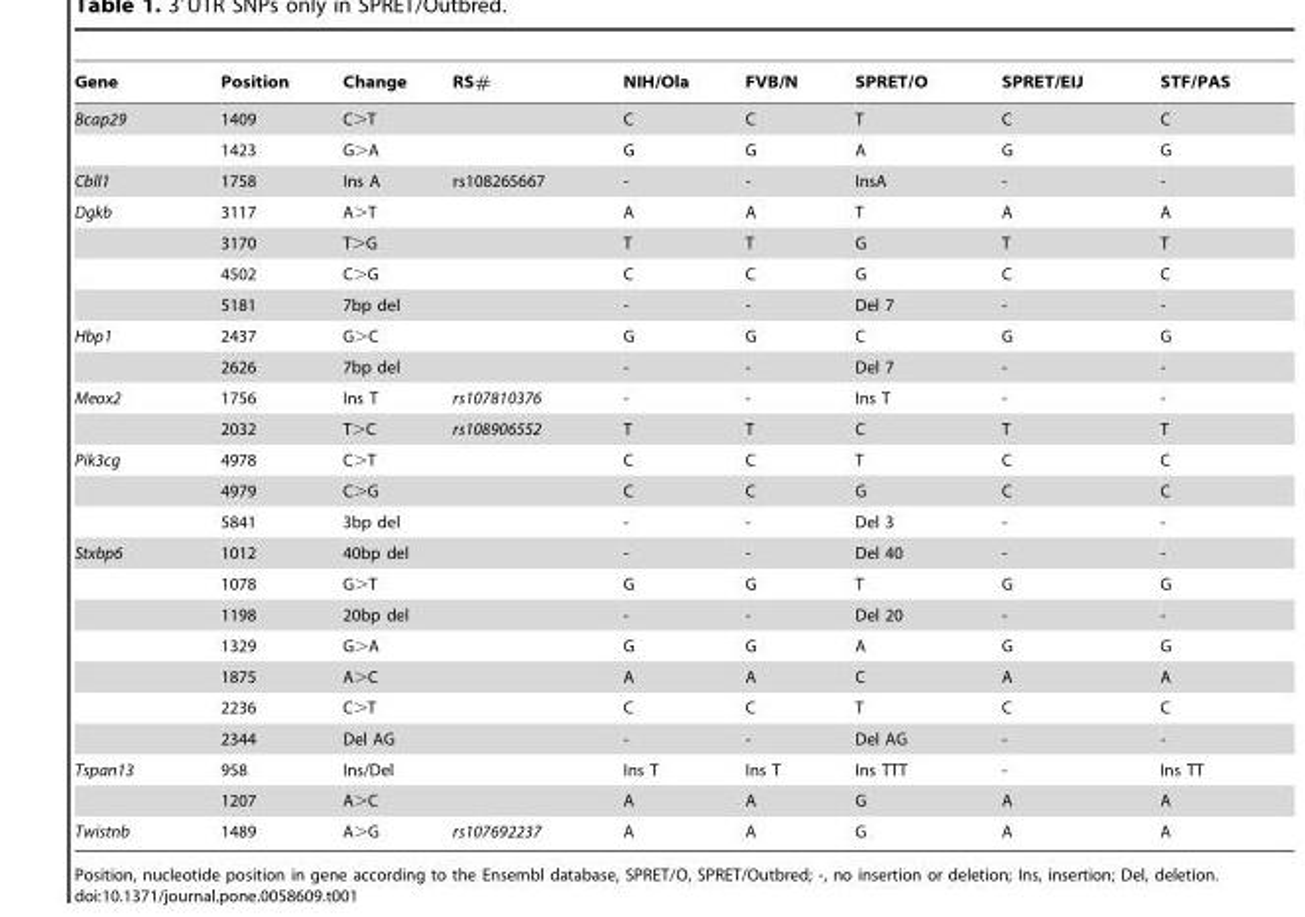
<table><thead><tr><td>Gene</td><td>Position</td><td>Change</td><td>RS#</td><td>NIH/Ola</td><td>FVB/N</td><td>SPRET/O</td><td>SPRET/EIJ</td><td>STF/PAS</td></tr></thead><tbody><tr><td rowspan="2">Bcap29</td><td>1409</td><td>C&gt;T</td><td></td><td>C</td><td>C</td><td>T</td><td>C</td><td>C</td></tr><tr><td>1423</td><td>G&gt;A</td><td></td><td>G</td><td>G</td><td>A</td><td>G</td><td>G</td></tr><tr><td>Cbll1</td><td>1758</td><td>Ins A</td><td>rs108265667</td><td>-</td><td>-</td><td>InsA</td><td>-</td><td>-</td></tr><tr><td rowspan="4">Dgkb</td><td>3117</td><td>A&gt;T</td><td></td><td>A</td><td>A</td><td>T</td><td>A</td><td>A</td></tr><tr><td>3170</td><td>T&gt;G</td><td></td><td>T</td><td>T</td><td>G</td><td>T</td><td>T</td></tr><tr><td>4502</td><td>C&gt;G</td><td></td><td>C</td><td>C</td><td>G</td><td>C</td><td>C</td></tr><tr><td>5181</td><td>7bp del</td><td></td><td>-</td><td>-</td><td>Del 7</td><td>-</td><td>-</td></tr><tr><td rowspan="2">Hbp1</td><td>2437</td><td>G&gt;C</td><td></td><td>G</td><td>G</td><td>C</td><td>G</td><td>G</td></tr><tr><td>2626</td><td>7bp del</td><td></td><td>-</td><td>-</td><td>Del 7</td><td>-</td><td>-</td></tr><tr><td rowspan="2">Meox2</td><td>1756</td><td>Ins T</td><td>rs107810376</td><td>-</td><td>-</td><td>Ins T</td><td>-</td><td>-</td></tr><tr><td>2032</td><td>T&gt;C</td><td>rs108906552</td><td>T</td><td>T</td><td>C</td><td>T</td><td>T</td></tr><tr><td rowspan="3">Pik3cg</td><td>4978</td><td>C&gt;T</td><td></td><td>C</td><td>C</td><td>T</td><td>C</td><td>C</td></tr><tr><td>4979</td><td>C&gt;G</td><td></td><td>C</td><td>C</td><td>G</td><td>C</td><td>C</td></tr><tr><td>5841</td><td>3bp del</td><td></td><td>-</td><td>-</td><td>Del 3</td><td>-</td><td>-</td></tr><tr><td rowspan="7">Stxbp6</td><td>1012</td><td>40bp del</td><td></td><td>-</td><td>-</td><td>Del 40</td><td>-</td><td>-</td></tr><tr><td>1078</td><td>G&gt;T</td><td></td><td>G</td><td>G</td><td>T</td><td>G</td><td>G</td></tr><tr><td>1198</td><td>20bp del</td><td></td><td>-</td><td>-</td><td>Del 20</td><td>-</td><td>-</td></tr><tr><td>1329</td><td>G&gt;A</td><td></td><td>G</td><td>G</td><td>A</td><td>G</td><td>G</td></tr><tr><td>1875</td><td>A&gt;C</td><td></td><td>A</td><td>A</td><td>C</td><td>A</td><td>A</td></tr><tr><td>2236</td><td>C&gt;T</td><td></td><td>C</td><td>C</td><td>T</td><td>C</td><td>C</td></tr><tr><td>2344</td><td>Del AG</td><td></td><td>-</td><td>-</td><td>Del AG</td><td>-</td><td>-</td></tr><tr><td rowspan="2">Tspan13</td><td>958</td><td>Ins/Del</td><td></td><td>Ins T</td><td>Ins T</td><td>Ins TTT</td><td>-</td><td>Ins TT</td></tr><tr><td>1207</td><td>A&gt;C</td><td></td><td>A</td><td>A</td><td>G</td><td>A</td><td>A</td></tr><tr><td>Twistnb</td><td>1489</td><td>A&gt;G</td><td>rs107692237</td><td>A</td><td>A</td><td>G</td><td>A</td><td>A</td></tr></tbody></table>